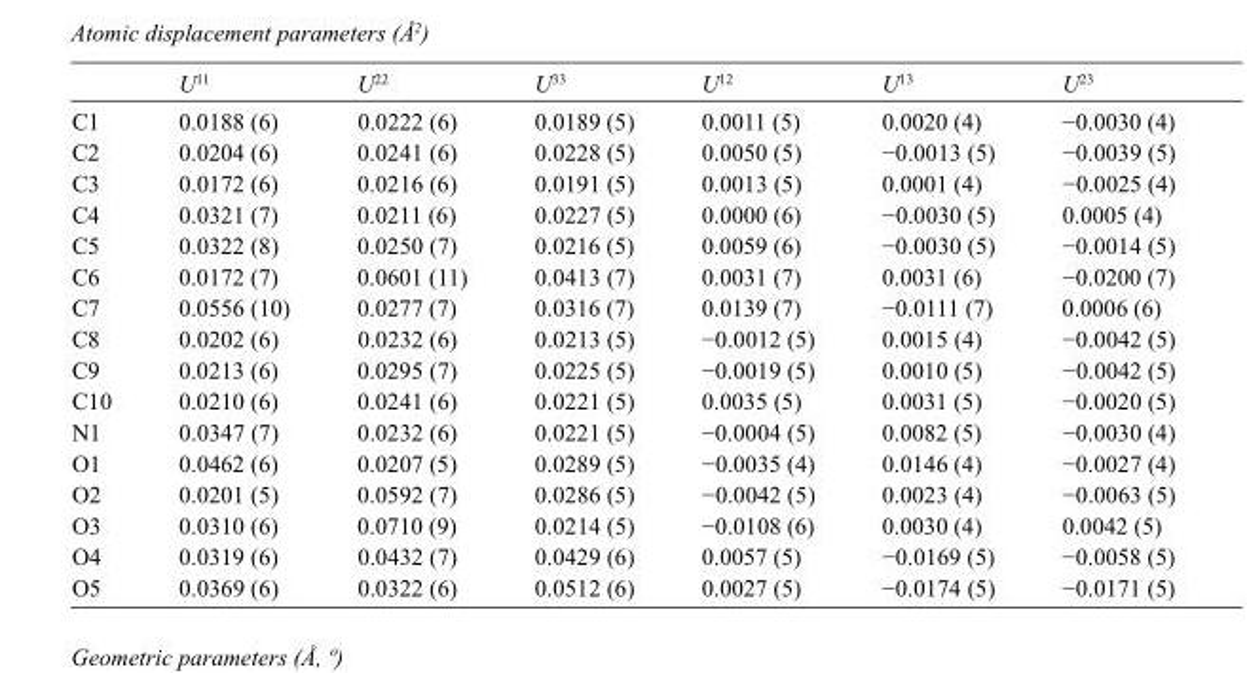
<table><thead><tr><td></td><td>U<sup>11</sup></td><td>U<sup>22</sup></td><td>U<sup>33</sup></td><td>U<sup>12</sup></td><td>U<sup>13</sup></td><td>U<sup>23</sup></td></tr></thead><tbody><tr><td>C1</td><td>0.0188 (6)</td><td>0.0222 (6)</td><td>0.0189 (5)</td><td>0.0011 (5)</td><td>0.0020 (4)</td><td>−0.0030 (4)</td></tr><tr><td>C2</td><td>0.0204 (6)</td><td>0.0241 (6)</td><td>0.0228 (5)</td><td>0.0050 (5)</td><td>−0.0013 (5)</td><td>−0.0039 (5)</td></tr><tr><td>C3</td><td>0.0172 (6)</td><td>0.0216 (6)</td><td>0.0191 (5)</td><td>0.0013 (5)</td><td>0.0001 (4)</td><td>−0.0025 (4)</td></tr><tr><td>C4</td><td>0.0321 (7)</td><td>0.0211 (6)</td><td>0.0227 (5)</td><td>0.0000 (6)</td><td>−0.0030 (5)</td><td>0.0005 (4)</td></tr><tr><td>C5</td><td>0.0322 (8)</td><td>0.0250 (7)</td><td>0.0216 (5)</td><td>0.0059 (6)</td><td>−0.0030 (5)</td><td>−0.0014 (5)</td></tr><tr><td>C6</td><td>0.0172 (7)</td><td>0.0601 (11)</td><td>0.0413 (7)</td><td>0.0031 (7)</td><td>0.0031 (6)</td><td>−0.0200 (7)</td></tr><tr><td>C7</td><td>0.0556 (10)</td><td>0.0277 (7)</td><td>0.0316 (7)</td><td>0.0139 (7)</td><td>−0.0111 (7)</td><td>0.0006 (6)</td></tr><tr><td>C8</td><td>0.0202 (6)</td><td>0.0232 (6)</td><td>0.0213 (5)</td><td>−0.0012 (5)</td><td>0.0015 (4)</td><td>−0.0042 (5)</td></tr><tr><td>C9</td><td>0.0213 (6)</td><td>0.0295 (7)</td><td>0.0225 (5)</td><td>−0.0019 (5)</td><td>0.0010 (5)</td><td>−0.0042 (5)</td></tr><tr><td>C10</td><td>0.0210 (6)</td><td>0.0241 (6)</td><td>0.0221 (5)</td><td>0.0035 (5)</td><td>0.0031 (5)</td><td>−0.0020 (5)</td></tr><tr><td>N1</td><td>0.0347 (7)</td><td>0.0232 (6)</td><td>0.0221 (5)</td><td>−0.0004 (5)</td><td>0.0082 (5)</td><td>−0.0030 (4)</td></tr><tr><td>O1</td><td>0.0462 (6)</td><td>0.0207 (5)</td><td>0.0289 (5)</td><td>−0.0035 (4)</td><td>0.0146 (4)</td><td>−0.0027 (4)</td></tr><tr><td>O2</td><td>0.0201 (5)</td><td>0.0592 (7)</td><td>0.0286 (5)</td><td>−0.0042 (5)</td><td>0.0023 (4)</td><td>−0.0063 (5)</td></tr><tr><td>O3</td><td>0.0310 (6)</td><td>0.0710 (9)</td><td>0.0214 (5)</td><td>−0.0108 (6)</td><td>0.0030 (4)</td><td>0.0042 (5)</td></tr><tr><td>O4</td><td>0.0319 (6)</td><td>0.0432 (7)</td><td>0.0429 (6)</td><td>0.0057 (5)</td><td>−0.0169 (5)</td><td>−0.0058 (5)</td></tr><tr><td>O5</td><td>0.0369 (6)</td><td>0.0322 (6)</td><td>0.0512 (6)</td><td>0.0027 (5)</td><td>−0.0174 (5)</td><td>−0.0171 (5)</td></tr></tbody></table>